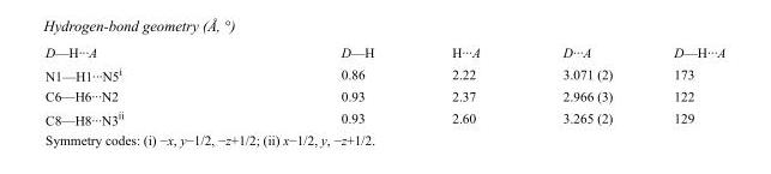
<table><tbody><tr><td>D—H···A</td><td>D—H</td><td>H···A</td><td>D···A</td><td>D—H···A</td></tr><tr><td>N1—H1···N5<sup>i</sup></td><td>0.86</td><td>2.22</td><td>3.071 (2)</td><td>173</td></tr><tr><td>C6—H6···N2</td><td>0.93</td><td>2.37</td><td>2.966 (3)</td><td>122</td></tr><tr><td>C8—H8···N3<sup>ii</sup></td><td>0.93</td><td>2.60</td><td>3.265 (2)</td><td>129</td></tr></tbody></table>